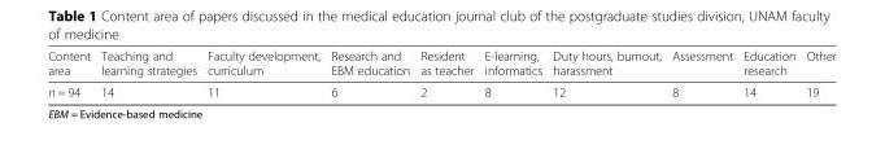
<table><thead><tr><td>Content area</td><td>Teaching and learning strategies</td><td>Faculty development, curriculum</td><td>Research and EBM education</td><td>Resident as teacher</td><td>E-learning, informatics</td><td>Duty hours, burnout, harassment</td><td>Assessment</td><td>Education research</td><td>Other</td></tr></thead><tbody><tr><td>n = 94</td><td>14</td><td>11</td><td>6</td><td>2</td><td>8</td><td>12</td><td>8</td><td>14</td><td>19</td></tr></tbody></table>